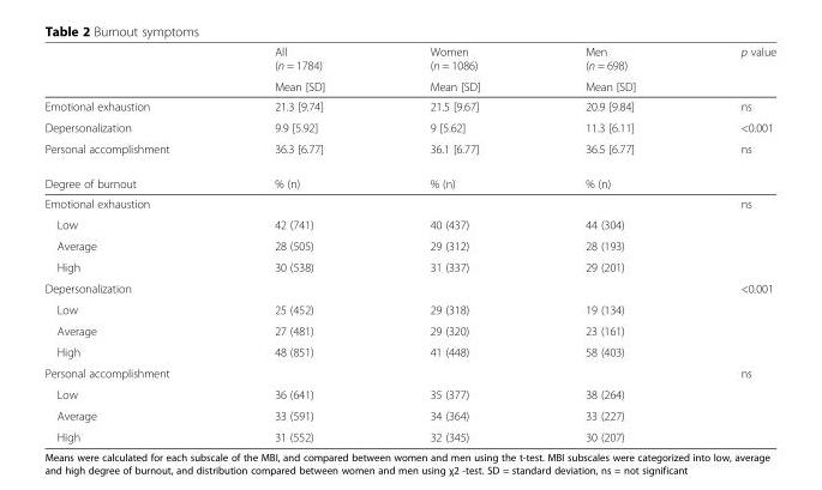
<table><thead><tr><td></td><td>All (n = 1784)</td><td>Women (n = 1086)</td><td>Men (n = 698)</td><td>p value</td></tr></thead><tbody><tr><td></td><td>Mean [SD]</td><td>Mean [SD]</td><td>Mean [SD]</td><td></td></tr><tr><td>Emotional exhaustion</td><td>21.3 [9.74]</td><td>21.5 [9.67]</td><td>20.9 [9.84]</td><td>ns</td></tr><tr><td>Depersonalization</td><td>9.9 [5.92]</td><td>9 [5.62]</td><td>11.3 [6.11]</td><td>&lt;0.001</td></tr><tr><td>Personal accomplishment</td><td>36.3 [6.77]</td><td>36.1 [6.77]</td><td>36.5 [6.77]</td><td>ns</td></tr><tr><td>Degree of burnout</td><td>% (n)</td><td>% (n)</td><td>% (n)</td><td></td></tr><tr><td>Emotional exhaustion</td><td></td><td></td><td></td><td>ns</td></tr><tr><td>Low</td><td>42 (741)</td><td>40 (437)</td><td>44 (304)</td><td></td></tr><tr><td>Average</td><td>28 (505)</td><td>29 (312)</td><td>28 (193)</td><td></td></tr><tr><td>High</td><td>30 (538)</td><td>31 (337)</td><td>29 (201)</td><td></td></tr><tr><td>Depersonalization</td><td></td><td></td><td></td><td>&lt;0.001</td></tr><tr><td>Low</td><td>25 (452)</td><td>29 (318)</td><td>19 (134)</td><td></td></tr><tr><td>Average</td><td>27 (481)</td><td>29 (320)</td><td>23 (161)</td><td></td></tr><tr><td>High</td><td>48 (851)</td><td>41 (448)</td><td>58 (403)</td><td></td></tr><tr><td>Personal accomplishment</td><td></td><td></td><td></td><td>ns</td></tr><tr><td>Low</td><td>36 (641)</td><td>35 (377)</td><td>38 (264)</td><td></td></tr><tr><td>Average</td><td>33 (591)</td><td>34 (364)</td><td>33 (227)</td><td></td></tr><tr><td>High</td><td>31 (552)</td><td>32 (345)</td><td>30 (207)</td><td></td></tr></tbody></table>